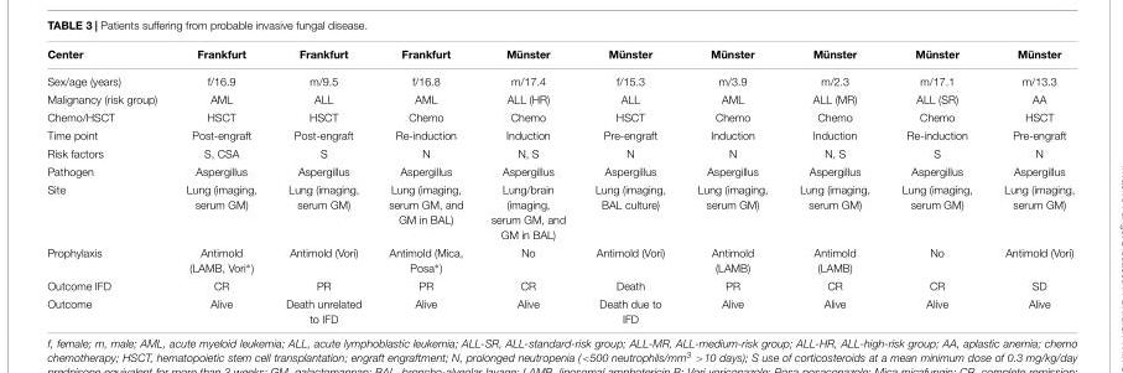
<table><thead><tr><td>Center</td><td>Frankfurt</td><td>Frankfurt</td><td>Frankfurt</td><td>Münster</td><td>Münster</td><td>Münster</td><td>Münster</td><td>Münster</td><td>Münster</td></tr></thead><tbody><tr><td>Sex/age (years)</td><td>f/16.9</td><td>m/9.5</td><td>f/16.8</td><td>m/17.4</td><td>f/15.3</td><td>m/3.9</td><td>m/2.3</td><td>m/17.1</td><td>m/13.3</td></tr><tr><td>Malignancy (risk group)</td><td>AML</td><td>ALL</td><td>AML</td><td>ALL (HR)</td><td>ALL</td><td>AML</td><td>ALL (MR)</td><td>ALL (SR)</td><td>AA</td></tr><tr><td>Chemo/HSCT</td><td>HSCT</td><td>HSCT</td><td>Chemo</td><td>Chemo</td><td>HSCT</td><td>Chemo</td><td>Chemo</td><td>Chemo</td><td>HSCT</td></tr><tr><td>Time point</td><td>Post-engraft</td><td>Post-engraft</td><td>Re-induction</td><td>Induction</td><td>Pre-engraft</td><td>Induction</td><td>Induction</td><td>Re-induction</td><td>Pre-engraft</td></tr><tr><td>Risk factors</td><td>S, CSA</td><td>S</td><td>N</td><td>N, S</td><td>N</td><td>N</td><td>N, S</td><td>S</td><td>N</td></tr><tr><td>Pathogen</td><td>Aspergillus</td><td>Aspergillus</td><td>Aspergillus</td><td>Aspergillus</td><td>Aspergillus</td><td>Aspergillus</td><td>Aspergillus</td><td>Aspergillus</td><td>Aspergillus</td></tr><tr><td>Site</td><td>Lung (imaging, serum GM)</td><td>Lung (imaging, serum GM)</td><td>Lung (imaging, serum GM, and GM in BAL)</td><td>Lung/brain (imaging, serum GM, and GM in BAL)</td><td>Lung (imaging, BAL culture)</td><td>Lung (imaging, serum GM)</td><td>Lung (imaging, serum GM)</td><td>Lung (imaging, serum GM)</td><td>Lung (imaging, serum GM)</td></tr><tr><td>Prophylaxis</td><td>Antimold (LAMB, Vori∗)</td><td>Antimold (Vori)</td><td>Antimold (Mica, Posa∗)</td><td>No</td><td>Antimold (Vori)</td><td>Antimold (LAMB)</td><td>Antimold (LAMB)</td><td>No</td><td>Antimold (Vori)</td></tr><tr><td>Outcome IFD</td><td>CR</td><td>PR</td><td>PR</td><td>CR</td><td>Death</td><td>PR</td><td>CR</td><td>CR</td><td>SD</td></tr><tr><td>Outcome</td><td>Alive</td><td>Death unrelated to IFD</td><td>Alive</td><td>Alive</td><td>Death due to IFD</td><td>Alive</td><td>Alive</td><td>Alive</td><td>Alive</td></tr></tbody></table>